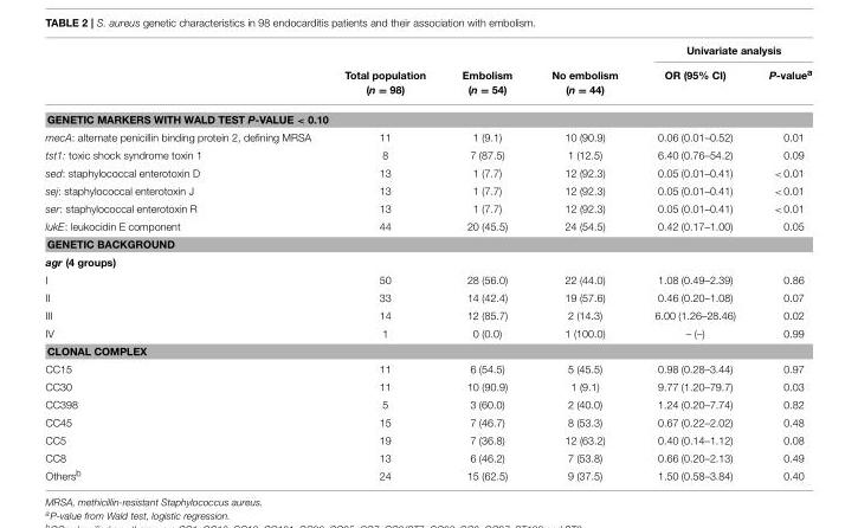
<table><thead><tr><td rowspan="2"></td><td rowspan="2">Total population (n = 98)</td><td rowspan="2">Embolism (n = 54)</td><td rowspan="2">No embolism (n = 44)</td><td colspan="2">Univariate analysis</td></tr><tr><td>OR (95% CI)</td><td>P-value<sup>a</sup></td></tr></thead><tbody><tr><td colspan="6">GENETIC MARKERS WITH WALD TEST P-VALUE &lt; 0.10</td></tr><tr><td>mecA: alternate penicillin binding protein 2, defining MRSA</td><td>11</td><td>1 (9.1)</td><td>10 (90.9)</td><td>0.06 (0.01–0.52)</td><td>0.01</td></tr><tr><td>tst1: toxic shock syndrome toxin 1</td><td>8</td><td>7 (87.5)</td><td>1 (12.5)</td><td>6.40 (0.76–54.2)</td><td>0.09</td></tr><tr><td>sed: staphylococcal enterotoxin D</td><td>13</td><td>1 (7.7)</td><td>12 (92.3)</td><td>0.05 (0.01–0.41)</td><td>&lt;0.01</td></tr><tr><td>sej: staphylococcal enterotoxin J</td><td>13</td><td>1 (7.7)</td><td>12 (92.3)</td><td>0.05 (0.01–0.41)</td><td>&lt;0.01</td></tr><tr><td>ser: staphylococcal enterotoxin R</td><td>13</td><td>1 (7.7)</td><td>12 (92.3)</td><td>0.05 (0.01–0.41)</td><td>&lt;0.01</td></tr><tr><td>lukE: leukocidin E component</td><td>44</td><td>20 (45.5)</td><td>24 (54.5)</td><td>0.42 (0.17–1.00)</td><td>0.05</td></tr><tr><td colspan="6">GENETIC BACKGROUND</td></tr><tr><td colspan="6">agr (4 groups)</td></tr><tr><td>I</td><td>50</td><td>28 (56.0)</td><td>22 (44.0)</td><td>1.08 (0.49–2.39)</td><td>0.86</td></tr><tr><td>II</td><td>33</td><td>14 (42.4)</td><td>19 (57.6)</td><td>0.46 (0.20–1.08)</td><td>0.07</td></tr><tr><td>III</td><td>14</td><td>12 (85.7)</td><td>2 (14.3)</td><td>6.00 (1.26–28.46)</td><td>0.02</td></tr><tr><td>IV</td><td>1</td><td>0 (0.0)</td><td>1 (100.0)</td><td>– (–)</td><td>0.99</td></tr><tr><td colspan="6">CLONAL COMPLEX</td></tr><tr><td>CC15</td><td>11</td><td>6 (54.5)</td><td>5 (45.5)</td><td>0.98 (0.28–3.44)</td><td>0.97</td></tr><tr><td>CC30</td><td>11</td><td>10 (90.9)</td><td>1 (9.1)</td><td>9.77 (1.20–79.7)</td><td>0.03</td></tr><tr><td>CC398</td><td>5</td><td>3 (60.0)</td><td>2 (40.0)</td><td>1.24 (0.20–7.74)</td><td>0.82</td></tr><tr><td>CC45</td><td>15</td><td>7 (46.7)</td><td>8 (53.3)</td><td>0.67 (0.22–2.02)</td><td>0.48</td></tr><tr><td>CC5</td><td>19</td><td>7 (36.8)</td><td>12 (63.2)</td><td>0.40 (0.14–1.12)</td><td>0.08</td></tr><tr><td>CC8</td><td>13</td><td>6 (46.2)</td><td>7 (53.8)</td><td>0.66 (0.20–2.13)</td><td>0.49</td></tr><tr><td>Others<sup>b</sup></td><td>24</td><td>15 (62.5)</td><td>9 (37.5)</td><td>1.50 (0.58–3.84)</td><td>0.40</td></tr></tbody></table>